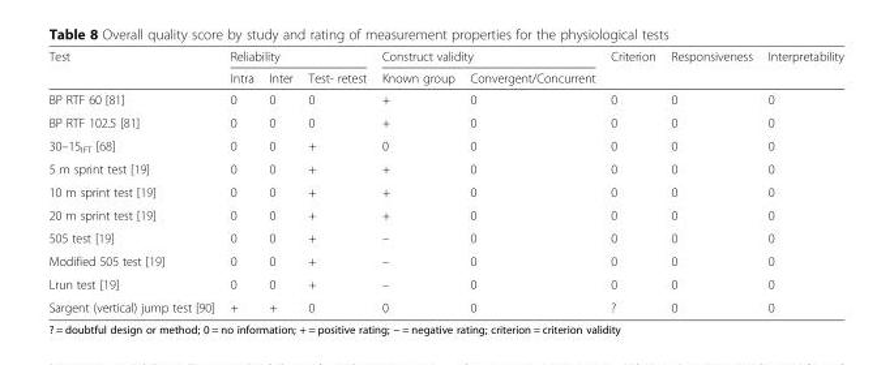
<table><thead><tr><td rowspan="2">Test</td><td colspan="3">Reliability</td><td colspan="2">Construct validity</td><td rowspan="2">Criterion</td><td rowspan="2">Responsiveness</td><td rowspan="2">Interpretability</td></tr><tr><td>Intra</td><td>Inter</td><td>Test- retest</td><td>Known group</td><td>Convergent/Concurrent</td></tr></thead><tbody><tr><td>BP RTF 60 [81]</td><td>0</td><td>0</td><td>0</td><td>+</td><td>0</td><td>0</td><td>0</td><td>0</td></tr><tr><td>BP RTF 102.5 [81]</td><td>0</td><td>0</td><td>0</td><td>+</td><td>0</td><td>0</td><td>0</td><td>0</td></tr><tr><td>30–15<sub>IFT</sub> [68]</td><td>0</td><td>0</td><td>+</td><td>0</td><td>0</td><td>0</td><td>0</td><td>0</td></tr><tr><td>5 m sprint test [19]</td><td>0</td><td>0</td><td>+</td><td>+</td><td>0</td><td>0</td><td>0</td><td>0</td></tr><tr><td>10 m sprint test [19]</td><td>0</td><td>0</td><td>+</td><td>+</td><td>0</td><td>0</td><td>0</td><td>0</td></tr><tr><td>20 m sprint test [19]</td><td>0</td><td>0</td><td>+</td><td>+</td><td>0</td><td>0</td><td>0</td><td>0</td></tr><tr><td>505 test [19]</td><td>0</td><td>0</td><td>+</td><td>–</td><td>0</td><td>0</td><td>0</td><td>0</td></tr><tr><td>Modified 505 test [19]</td><td>0</td><td>0</td><td>+</td><td>–</td><td>0</td><td>0</td><td>0</td><td>0</td></tr><tr><td>Lrun test [19]</td><td>0</td><td>0</td><td>+</td><td>–</td><td>0</td><td>0</td><td>0</td><td>0</td></tr><tr><td>Sargent (vertical) jump test [90]</td><td>+</td><td>+</td><td>0</td><td>0</td><td>0</td><td>?</td><td>0</td><td>0</td></tr></tbody></table>